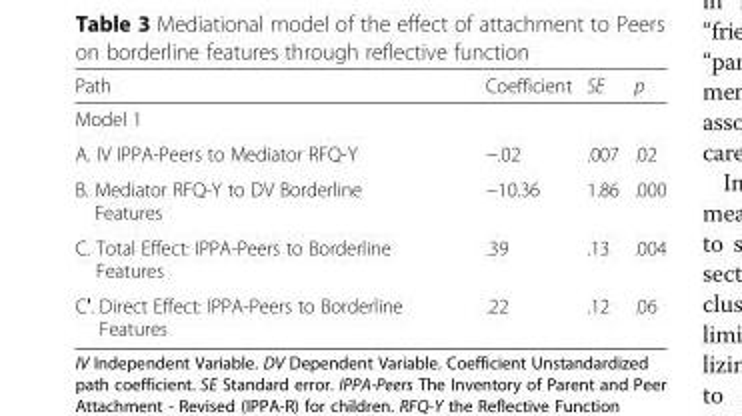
<table><thead><tr><td>Path</td><td>Coefficient</td><td>SE</td><td>p</td></tr></thead><tbody><tr><td colspan="4">Model 1</td></tr><tr><td>A. IV IPPA-Peers to Mediator RFQ-Y</td><td>−.02</td><td>.007</td><td>.02</td></tr><tr><td>B. Mediator RFQ-Y to DV Borderline Features</td><td>−10.36</td><td>1.86</td><td>.000</td></tr><tr><td>C. Total Effect: IPPA-Peers to Borderline Features</td><td>.39</td><td>.13</td><td>.004</td></tr><tr><td>C′. Direct Effect: IPPA-Peers to Borderline Features</td><td>.22</td><td>.12</td><td>.06</td></tr></tbody></table>